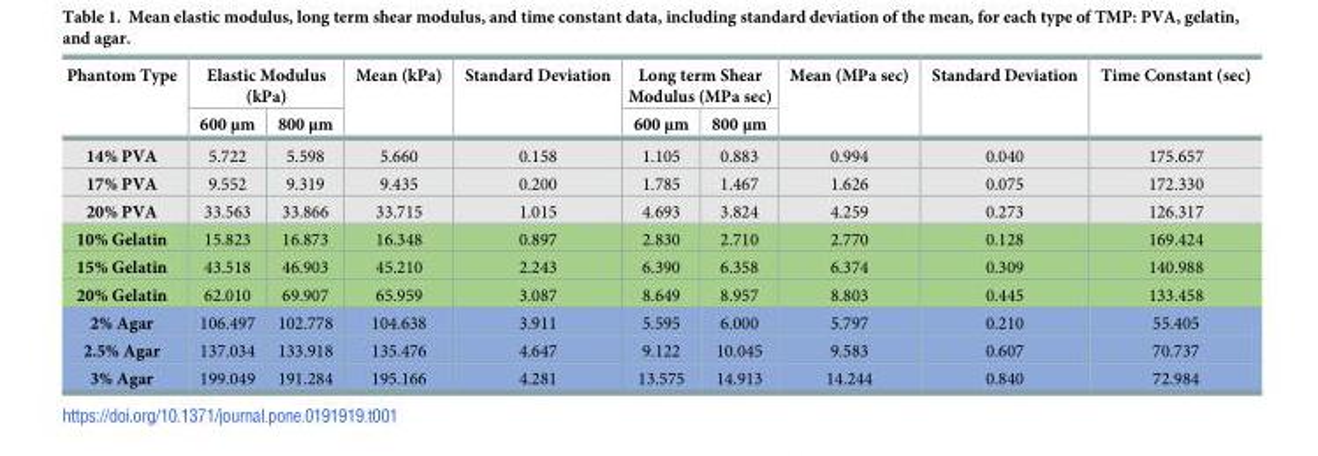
<table><thead><tr><td rowspan="2">Phantom Type</td><td colspan="2">Elastic Modulus (kPa)</td><td rowspan="2">Mean (kPa)</td><td rowspan="2">Standard Deviation</td><td colspan="2">Long term Shear Modulus (MPa sec)</td><td rowspan="2">Mean (MPa sec)</td><td rowspan="2">Standard Deviation</td><td rowspan="2">Time Constant (sec)</td></tr><tr><td>600 μm</td><td>800 μm</td><td>600 μm</td><td>800 μm</td></tr></thead><tbody><tr><td>14% PVA</td><td>5.722</td><td>5.598</td><td>5.660</td><td>0.158</td><td>1.105</td><td>0.883</td><td>0.994</td><td>0.040</td><td>175.657</td></tr><tr><td>17% PVA</td><td>9.552</td><td>9.319</td><td>9.435</td><td>0.200</td><td>1.785</td><td>1.467</td><td>1.626</td><td>0.075</td><td>172.330</td></tr><tr><td>20% PVA</td><td>33.563</td><td>33.866</td><td>33.715</td><td>1.015</td><td>4.693</td><td>3.824</td><td>4.259</td><td>0.273</td><td>126.317</td></tr><tr><td>10% Gelatin</td><td>15.823</td><td>16.873</td><td>16.348</td><td>0.897</td><td>2.830</td><td>2.710</td><td>2.770</td><td>0.128</td><td>169.424</td></tr><tr><td>15% Gelatin</td><td>43.518</td><td>46.903</td><td>45.210</td><td>2.243</td><td>6.390</td><td>6.358</td><td>6.374</td><td>0.309</td><td>140.988</td></tr><tr><td>20% Gelatin</td><td>62.010</td><td>69.907</td><td>65.959</td><td>3.087</td><td>8.649</td><td>8.957</td><td>8.803</td><td>0.445</td><td>133.458</td></tr><tr><td>2% Agar</td><td>106.497</td><td>102.778</td><td>104.638</td><td>3.911</td><td>5.595</td><td>6.000</td><td>5.797</td><td>0.210</td><td>55.405</td></tr><tr><td>2.5% Agar</td><td>137.034</td><td>133.918</td><td>135.476</td><td>4.647</td><td>9.122</td><td>10.045</td><td>9.583</td><td>0.607</td><td>70.737</td></tr><tr><td>3% Agar</td><td>199.049</td><td>191.284</td><td>195.166</td><td>4.281</td><td>13.575</td><td>14.913</td><td>14.244</td><td>0.840</td><td>72.984</td></tr></tbody></table>